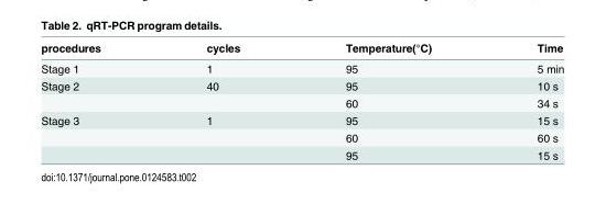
<table><thead><tr><td>procedures</td><td>cycles</td><td>Temperature(°C)</td><td>Time</td></tr></thead><tbody><tr><td>Stage 1</td><td>1</td><td>95</td><td>5 min</td></tr><tr><td rowspan="2">Stage 2</td><td>40</td><td>95</td><td>10 s</td></tr><tr><td></td><td>60</td><td>34 s</td></tr><tr><td rowspan="3">Stage 3</td><td>1</td><td>95</td><td>15 s</td></tr><tr><td></td><td>60</td><td>60 s</td></tr><tr><td></td><td>95</td><td>15 s</td></tr></tbody></table>